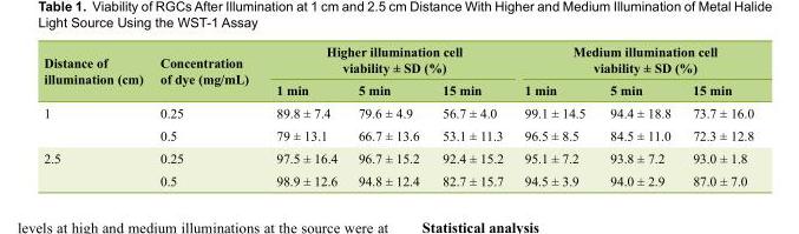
<table><thead><tr><td rowspan="2">Distance of illumination (cm)</td><td rowspan="2">Concentration of dye (mg/mL)</td><td colspan="3">Higher illumination cell viability ± SD (%)</td><td colspan="3">Medium illumination cell viability ± SD (%)</td></tr><tr><td>1 min</td><td>5 min</td><td>15 min</td><td>1 min</td><td>5 min</td><td>15 min</td></tr></thead><tbody><tr><td rowspan="2">1</td><td>0.25</td><td>89.8 ± 7.4</td><td>79.6 ± 4.9</td><td>56.7 ± 4.0</td><td>99.1 ± 14.5</td><td>94.4 ± 18.8</td><td>73.7 ± 16.0</td></tr><tr><td>0.5</td><td>79 ± 13.1</td><td>66.7 ± 13.6</td><td>53.1 ± 11.3</td><td>96.5 ± 8.5</td><td>84.5 ± 11.0</td><td>72.3 ± 12.8</td></tr><tr><td rowspan="2">2.5</td><td>0.25</td><td>97.5 ± 16.4</td><td>96.7 ± 15.2</td><td>92.4 ± 15.2</td><td>95.1 ± 7.2</td><td>93.8 ± 7.2</td><td>93.0 ± 1.8</td></tr><tr><td>0.5</td><td>98.9 ± 12.6</td><td>94.8 ± 12.4</td><td>82.7 ± 15.7</td><td>94.5 ± 3.9</td><td>94.0 ± 2.9</td><td>87.0 ± 7.0</td></tr></tbody></table>